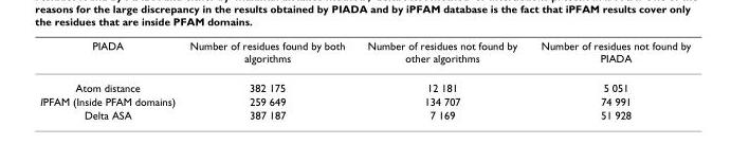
<table><thead><tr><td>PIADA</td><td>Number of residues found by both algorithms</td><td>Number of residues not found by other algorithms</td><td>Number of residues not found by PIADA</td></tr></thead><tbody><tr><td>Atom distance</td><td>382 175</td><td>12 181</td><td>5 051</td></tr><tr><td>IPFAM (Inside PFAM domains)</td><td>259 649</td><td>134 707</td><td>74 991</td></tr><tr><td>Delta ASA</td><td>387 187</td><td>7 169</td><td>51 928</td></tr></tbody></table>